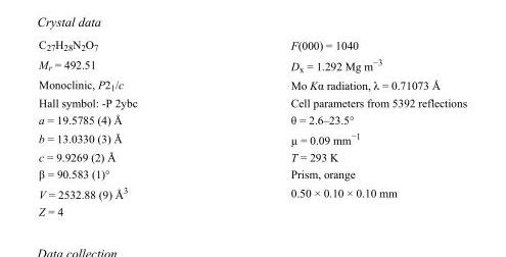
<table><tbody><tr><td>C<sub>27</sub>H<sub>28</sub>N<sub>2</sub>O<sub>7</sub></td><td>F(000) = 1040</td></tr><tr><td>M<sub>r</sub> = 492.51</td><td>D<sub>x</sub> = 1.292 Mg m<sup>−3</sup></td></tr><tr><td>Monoclinic, P2<sub>1</sub>/c</td><td>Mo Kα radiation, λ = 0.71073 Å</td></tr><tr><td>Hall symbol: -P 2ybc</td><td>Cell parameters from 5392 reflections</td></tr><tr><td>a = 19.5785 (4) Å</td><td>θ = 2.6–23.5°</td></tr><tr><td>b = 13.0330 (3) Å</td><td>µ = 0.09 mm<sup>−1</sup></td></tr><tr><td>c = 9.9269 (2) Å</td><td>T = 293 K</td></tr><tr><td>β = 90.583 (1)°</td><td>Prism, orange</td></tr><tr><td>V = 2532.88 (9) Å<sup>3</sup></td><td>0.50 × 0.10 × 0.10 mm</td></tr><tr><td>Z = 4</td><td></td></tr></tbody></table>